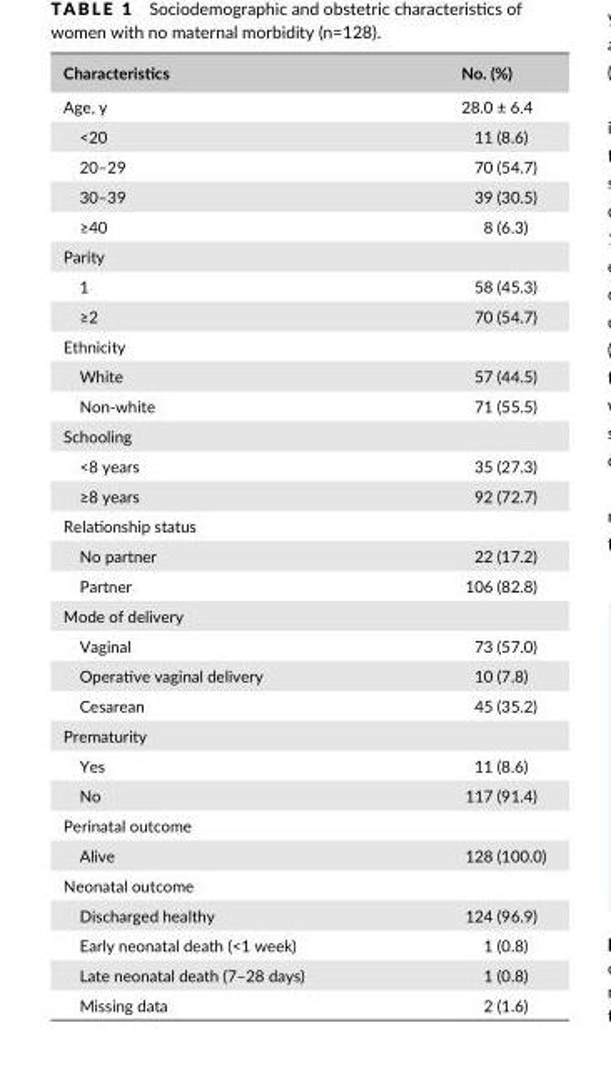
<table><thead><tr><td>Characteristics</td><td>No. (%)</td></tr></thead><tbody><tr><td>Age, y</td><td>28.0 ± 6.4</td></tr><tr><td>&lt;20</td><td>11 (8.6)</td></tr><tr><td>20–29</td><td>70 (54.7)</td></tr><tr><td>30–39</td><td>39 (30.5)</td></tr><tr><td>≥40</td><td>8 (6.3)</td></tr><tr><td colspan="2">Parity</td></tr><tr><td>1</td><td>58 (45.3)</td></tr><tr><td>≥2</td><td>70 (54.7)</td></tr><tr><td colspan="2">Ethnicity</td></tr><tr><td>White</td><td>57 (44.5)</td></tr><tr><td>Non- white</td><td>71 (55.5)</td></tr><tr><td colspan="2">Schooling</td></tr><tr><td>&lt;8 years</td><td>35 (27.3)</td></tr><tr><td>≥8 years</td><td>92 (72.7)</td></tr><tr><td colspan="2">Relationship status</td></tr><tr><td>No partner</td><td>22 (17.2)</td></tr><tr><td>Partner</td><td>106 (82.8)</td></tr><tr><td colspan="2">Mode of delivery</td></tr><tr><td>Vaginal</td><td>73 (57.0)</td></tr><tr><td>Operative vaginal delivery</td><td>10 (7.8)</td></tr><tr><td>Cesarean</td><td>45 (35.2)</td></tr><tr><td colspan="2">Prematurity</td></tr><tr><td>Yes</td><td>11 (8.6)</td></tr><tr><td>No</td><td>117 (91.4)</td></tr><tr><td colspan="2">Perinatal outcome</td></tr><tr><td>Alive</td><td>128 (100.0)</td></tr><tr><td colspan="2">Neonatal outcome</td></tr><tr><td>Discharged healthy</td><td>124 (96.9)</td></tr><tr><td>Early neonatal death (&lt;1 week)</td><td>1 (0.8)</td></tr><tr><td>Late neonatal death (7–28 days)</td><td>1 (0.8)</td></tr><tr><td>Missing data</td><td>2 (1.6)</td></tr></tbody></table>